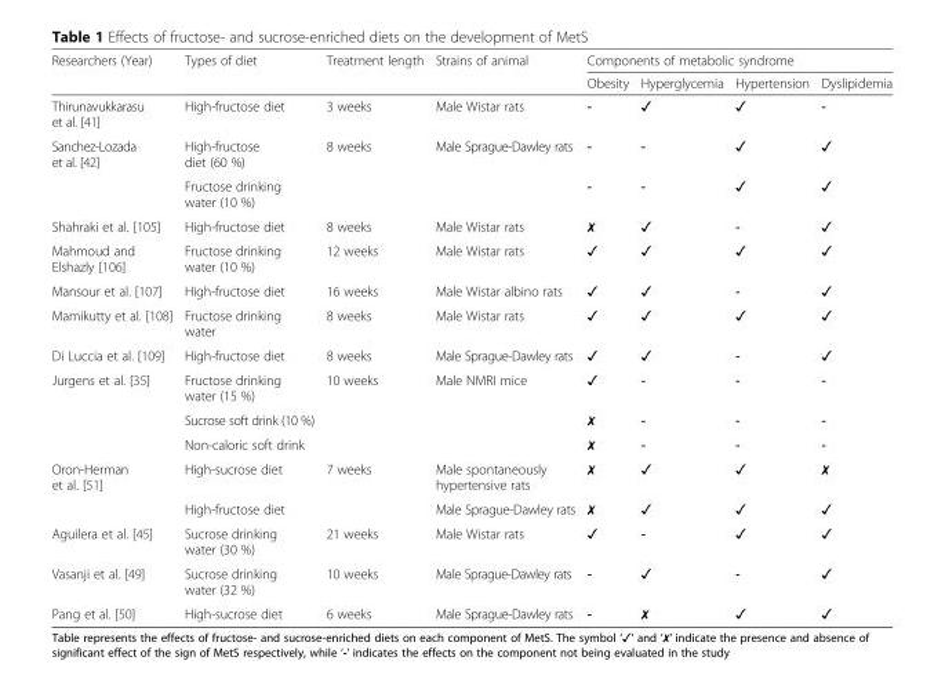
<table><thead><tr><td rowspan="2">Researchers (Year)</td><td rowspan="2">Types of diet</td><td rowspan="2">Treatment length</td><td rowspan="2">Strains of animal</td><td colspan="4">Components of metabolic syndrome</td></tr><tr><td>Obesity</td><td>Hyperglycemia</td><td>Hypertension</td><td>Dyslipidemia</td></tr></thead><tbody><tr><td>Thirunavukkarasu et al. [41]</td><td>High-fructose diet</td><td>3 weeks</td><td>Male Wistar rats</td><td>-</td><td>✓</td><td>✓</td><td>-</td></tr><tr><td rowspan="2">Sanchez-Lozada et al. [42]</td><td>High-fructose diet (60 %)</td><td rowspan="2">8 weeks</td><td rowspan="2">Male Sprague-Dawley rats</td><td>-</td><td>-</td><td>✓</td><td>✓</td></tr><tr><td>Fructose drinking water (10 %)</td><td>-</td><td>-</td><td>✓</td><td>✓</td></tr><tr><td>Shahraki et al. [105]</td><td>High-fructose diet</td><td>8 weeks</td><td>Male Wistar rats</td><td>✗</td><td>✓</td><td>-</td><td>✓</td></tr><tr><td>Mahmoud and Elshazly [106]</td><td>Fructose drinking water (10 %)</td><td>12 weeks</td><td>Male Wistar rats</td><td>✓</td><td>✓</td><td>✓</td><td>✓</td></tr><tr><td>Mansour et al. [107]</td><td>High-fructose diet</td><td>16 weeks</td><td>Male Wistar albino rats</td><td>✓</td><td>✓</td><td>-</td><td>✓</td></tr><tr><td>Mamikutty et al. [108]</td><td>Fructose drinking water</td><td>8 weeks</td><td>Male Wistar rats</td><td>✓</td><td>✓</td><td>✓</td><td>✓</td></tr><tr><td>Di Luccia et al. [109]</td><td>High-fructose diet</td><td>8 weeks</td><td>Male Sprague-Dawley rats</td><td>✓</td><td>✓</td><td>-</td><td>✓</td></tr><tr><td rowspan="3">Jurgens et al. [35]</td><td>Fructose drinking water (15 %)</td><td rowspan="3">10 weeks</td><td rowspan="3">Male NMRI mice</td><td>✓</td><td>-</td><td>-</td><td>-</td></tr><tr><td>Sucrose soft drink (10 %)</td><td>✗</td><td>-</td><td>-</td><td>-</td></tr><tr><td>Non-caloric soft drink</td><td>✗</td><td>-</td><td>-</td><td>-</td></tr><tr><td rowspan="2">Oron-Herman et al. [51]</td><td>High-sucrose diet</td><td rowspan="2">7 weeks</td><td>Male spontaneously hypertensive rats</td><td>✗</td><td>✓</td><td>✓</td><td>✗</td></tr><tr><td>High-fructose diet</td><td>Male Sprague-Dawley rats</td><td>✗</td><td>✓</td><td>✓</td><td>✓</td></tr><tr><td>Aguilera et al. [45]</td><td>Sucrose drinking water (30 %)</td><td>21 weeks</td><td>Male Wistar rats</td><td>✓</td><td>-</td><td>✓</td><td>✓</td></tr><tr><td>Vasanji et al. [49]</td><td>Sucrose drinking water (32 %)</td><td>10 weeks</td><td>Male Sprague-Dawley rats</td><td>-</td><td>✓</td><td>-</td><td>✓</td></tr><tr><td>Pang et al. [50]</td><td>High-sucrose diet</td><td>6 weeks</td><td>Male Sprague-Dawley rats</td><td>-</td><td>✗</td><td>✓</td><td>✓</td></tr></tbody></table>